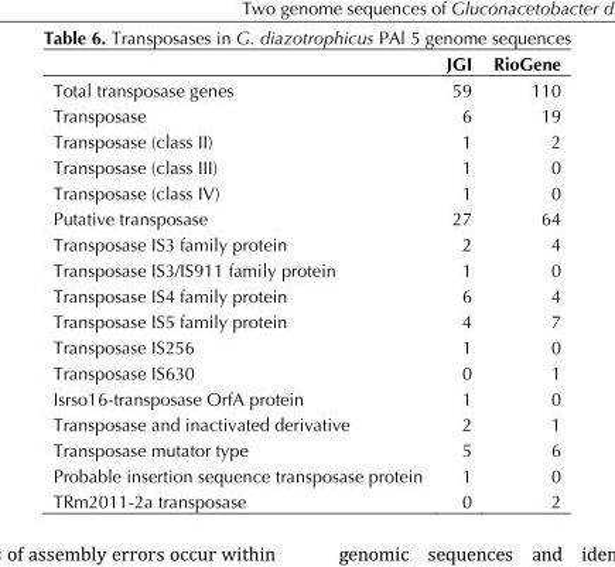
<table><thead><tr><td></td><td>JGI</td><td>RioGene</td></tr></thead><tbody><tr><td>Total transposase genes</td><td>59</td><td>110</td></tr><tr><td>Transposase</td><td>6</td><td>19</td></tr><tr><td>Transposase (class II)</td><td>1</td><td>2</td></tr><tr><td>Transposase (class III)</td><td>1</td><td>0</td></tr><tr><td>Transposase (class IV)</td><td>1</td><td>0</td></tr><tr><td>Putative transposase</td><td>27</td><td>64</td></tr><tr><td>Transposase IS3 family protein</td><td>2</td><td>4</td></tr><tr><td>Transposase IS3/IS911 family protein</td><td>1</td><td>0</td></tr><tr><td>Transposase IS4 family protein</td><td>6</td><td>4</td></tr><tr><td>Transposase IS5 family protein</td><td>4</td><td>7</td></tr><tr><td>Transposase IS256</td><td>1</td><td>0</td></tr><tr><td>Transposase IS630</td><td>0</td><td>1</td></tr><tr><td>Isrso16-transposase OrfA protein</td><td>1</td><td>0</td></tr><tr><td>Transposase and inactivated derivative</td><td>2</td><td>1</td></tr><tr><td>Transposase mutator type</td><td>5</td><td>6</td></tr><tr><td>Probable insertion sequence transposase protein</td><td>1</td><td>0</td></tr><tr><td>TRm2011-2a transposase</td><td>0</td><td>2</td></tr></tbody></table>